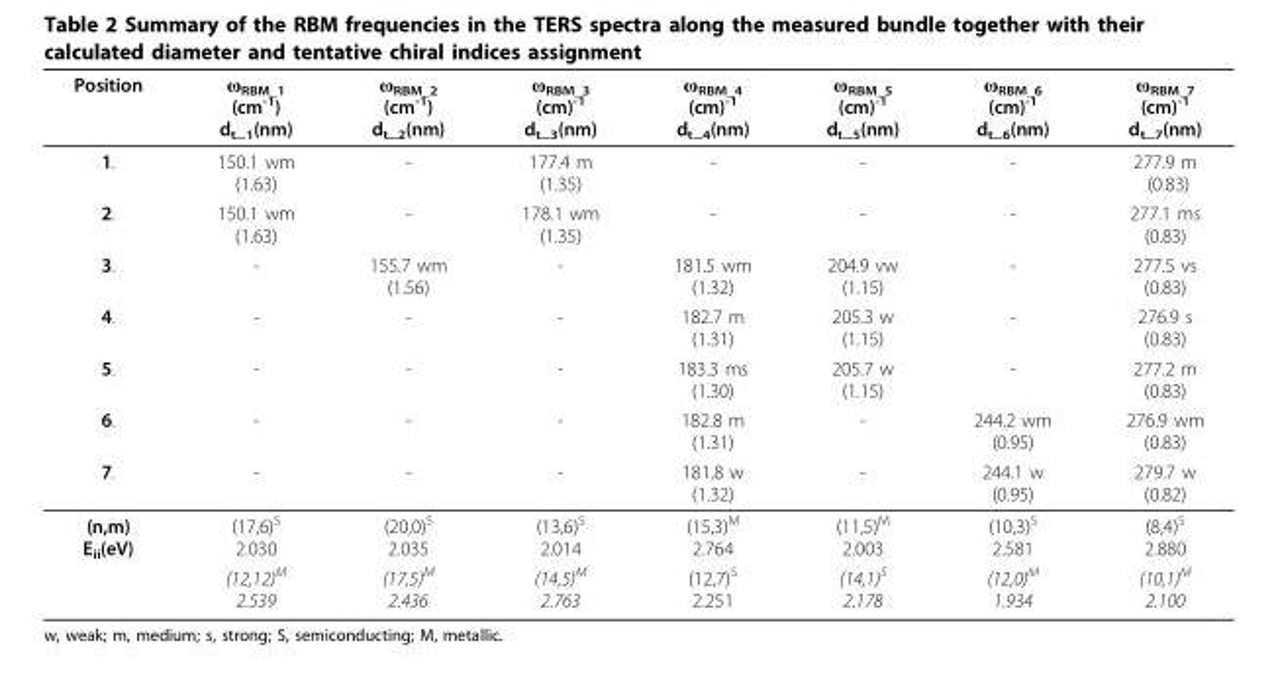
<table><thead><tr><td>Position</td><td>ω<sub>RBM_1</sub> (cm<sup>-1</sup>) d<sub>t</sub>_<sub>1</sub>(nm)</td><td>ω<sub>RBM_2</sub> (cm<sup>-1</sup>) d<sub>t</sub>_<sub>2</sub>(nm)</td><td>ωRBM_3 (cm)<sup>-1</sup> d<sub>t</sub>_<sub>3</sub>(nm)</td><td>ω<sub>RBM_4</sub> (cm)<sup>-1</sup> d<sub>t</sub>_<sub>4</sub>(nm)</td><td>ω<sub>RBM_5</sub> (cm)<sup>-1</sup> d<sub>t</sub>_<sub>5</sub>(nm)</td><td>ω<sub>RBM_6</sub> (cm)<sup>-1</sup> d<sub>t</sub>_<sub>6</sub>(nm)</td><td>ωRBM_7 (cm)-1 dt_7(nm)</td></tr></thead><tbody><tr><td>1.</td><td>150.1 wm (1.63)</td><td>-</td><td>177.4 m (1.35)</td><td>-</td><td>-</td><td>-</td><td>277.9 m (0.83)</td></tr><tr><td>2.</td><td>150.1 wm (1.63)</td><td>-</td><td>178.1 wm (1.35)</td><td>-</td><td>-</td><td>-</td><td>277.1 ms (0.83)</td></tr><tr><td>3.</td><td>-</td><td>155.7 wm (1.56)</td><td>-</td><td>181.5 wm (1.32)</td><td>204.9 vw (1.15)</td><td>-</td><td>277.5 vs (0.83)</td></tr><tr><td>4.</td><td>-</td><td>-</td><td>-</td><td>182.7 m (1.31)</td><td>205.3 w (1.15)</td><td>-</td><td>276.9 s (0.83)</td></tr><tr><td>5.</td><td>-</td><td>-</td><td>-</td><td>183.3 ms (1.30)</td><td>205.7 w (1.15)</td><td>-</td><td>277.2 m (0.83)</td></tr><tr><td>6.</td><td>-</td><td>-</td><td>-</td><td>182.8 m (1.31)</td><td>-</td><td>244.2 wm (0.95)</td><td>276.9 wm (0.83)</td></tr><tr><td>7.</td><td>-</td><td>-</td><td>-</td><td>181.8 w (1.32)</td><td>-</td><td>244.1 w (0.95)</td><td>279.7 w (0.82)</td></tr><tr><td rowspan="2">(n,m) E<sub>ii</sub>(eV)</td><td>(17,6)<sup>S</sup> 2.030</td><td>(20,0)<sup>S</sup> 2.035</td><td>(13,6)<sup>S</sup> 2.014</td><td>(15,3)<sup>M</sup> 2.764</td><td>(11,5)<sup>M</sup> 2.003</td><td>(10,3)<sup>S</sup> 2.581</td><td>(8,4)<sup>S</sup> 2.880</td></tr><tr><td>(12,12)<sup>M</sup> 2.539</td><td>(17,5)<sup>M</sup> 2.436</td><td>(14,5)<sup>M</sup> 2.763</td><td>(12,7)<sup>S</sup> 2.251</td><td>(14,1)<sup>S</sup> 2.178</td><td>(12,0)<sup>M</sup> 1.934</td><td>(10,1)<sup>M</sup> 2.100</td></tr></tbody></table>